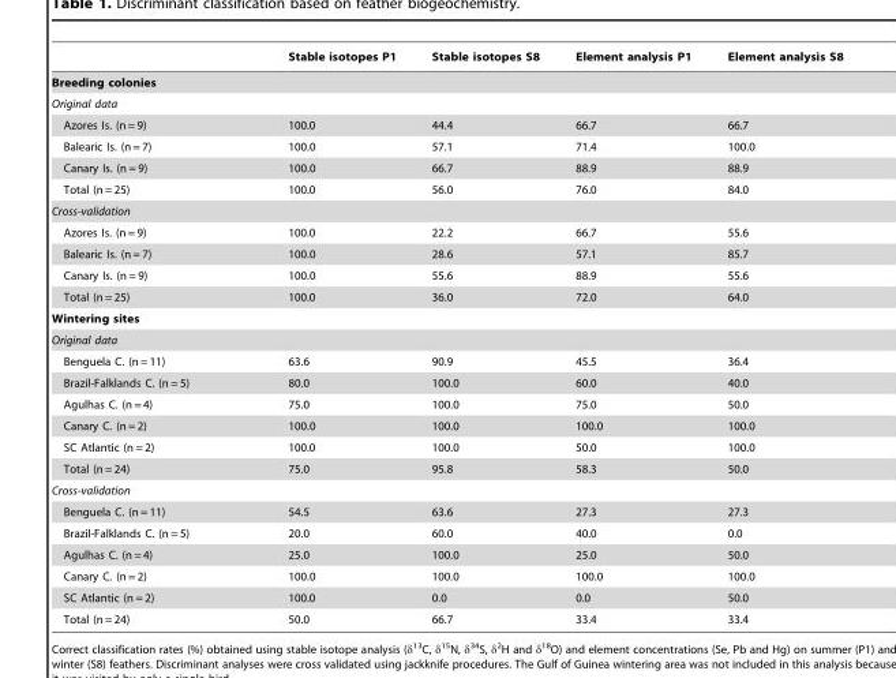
<table><thead><tr><td></td><td>Stable isotopes P1</td><td>Stable isotopes S8</td><td>Element analysis P1</td><td>Element analysis S8</td></tr></thead><tbody><tr><td colspan="5">Breeding colonies</td></tr><tr><td colspan="5">Original data</td></tr><tr><td>Azores Is. (n = 9)</td><td>100.0</td><td>44.4</td><td>66.7</td><td>66.7</td></tr><tr><td>Balearic Is. (n = 7)</td><td>100.0</td><td>57.1</td><td>71.4</td><td>100.0</td></tr><tr><td>Canary Is. (n = 9)</td><td>100.0</td><td>66.7</td><td>88.9</td><td>88.9</td></tr><tr><td>Total (n = 25)</td><td>100.0</td><td>56.0</td><td>76.0</td><td>84.0</td></tr><tr><td colspan="5">Cross-validation</td></tr><tr><td>Azores Is. (n = 9)</td><td>100.0</td><td>22.2</td><td>66.7</td><td>55.6</td></tr><tr><td>Balearic Is. (n = 7)</td><td>100.0</td><td>28.6</td><td>57.1</td><td>85.7</td></tr><tr><td>Canary Is. (n = 9)</td><td>100.0</td><td>55.6</td><td>88.9</td><td>55.6</td></tr><tr><td>Total (n = 25)</td><td>100.0</td><td>36.0</td><td>72.0</td><td>64.0</td></tr><tr><td colspan="5">Wintering sites</td></tr><tr><td colspan="5">Original data</td></tr><tr><td>Benguela C. (n = 11)</td><td>63.6</td><td>90.9</td><td>45.5</td><td>36.4</td></tr><tr><td>Brazil-Falklands C. (n = 5)</td><td>80.0</td><td>100.0</td><td>60.0</td><td>40.0</td></tr><tr><td>Agulhas C. (n = 4)</td><td>75.0</td><td>100.0</td><td>75.0</td><td>50.0</td></tr><tr><td>Canary C. (n = 2)</td><td>100.0</td><td>100.0</td><td>100.0</td><td>100.0</td></tr><tr><td>SC Atlantic (n = 2)</td><td>100.0</td><td>100.0</td><td>50.0</td><td>100.0</td></tr><tr><td>Total (n = 24)</td><td>75.0</td><td>95.8</td><td>58.3</td><td>50.0</td></tr><tr><td colspan="5">Cross-validation</td></tr><tr><td>Benguela C. (n = 11)</td><td>54.5</td><td>63.6</td><td>27.3</td><td>27.3</td></tr><tr><td>Brazil-Falklands C. (n = 5)</td><td>20.0</td><td>60.0</td><td>40.0</td><td>0.0</td></tr><tr><td>Agulhas C. (n = 4)</td><td>25.0</td><td>100.0</td><td>25.0</td><td>50.0</td></tr><tr><td>Canary C. (n = 2)</td><td>100.0</td><td>100.0</td><td>100.0</td><td>100.0</td></tr><tr><td>SC Atlantic (n = 2)</td><td>100.0</td><td>0.0</td><td>0.0</td><td>50.0</td></tr><tr><td>Total (n = 24)</td><td>50.0</td><td>66.7</td><td>33.4</td><td>33.4</td></tr></tbody></table>